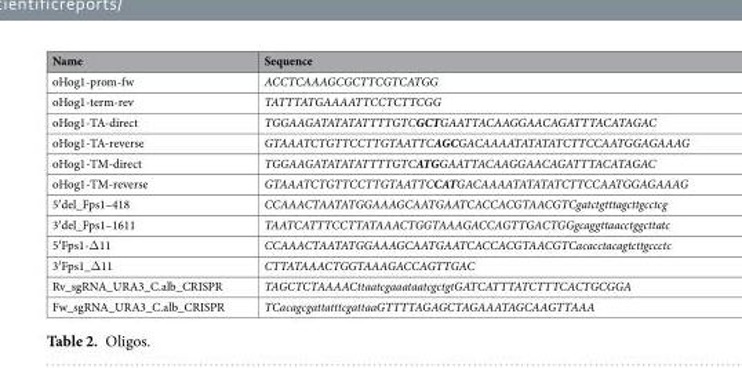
<table><thead><tr><td>Name</td><td>Sequence</td></tr></thead><tbody><tr><td>oHog1-prom-fw</td><td>ACCTCAAAGCGCTTCGTCATGG</td></tr><tr><td>oHog1-term-rev</td><td>TATTTATGAAAATTCCTCTTCGG</td></tr><tr><td>oHog1-TA-direct</td><td>TGGAAGATATATATTTTGTCGCTGAATTACAAGGAACAGATTTACATAGAC</td></tr><tr><td>oHog1-TA-reverse</td><td>GTAAATCTGTTCCTTGTAATTCAGCGACAAAATATATATCTTCCAATGGAGAAAG</td></tr><tr><td>oHog1-TM-direct</td><td>TGGAAGATATATATTTTGTCATGGAATTACAAGGAACAGATTTACATAGAC</td></tr><tr><td>oHog1-TM-reverse</td><td>GTAAATCTGTTCCTTGTAATTCCATGACAAAATATATATCTTCCAATGGAGAAAG</td></tr><tr><td>5′del_Fps1–418</td><td>CCAAACTAATATGGAAAGCAATGAATCACCACGTAACGTCgatctgtttagcttgcctcg</td></tr><tr><td>3′del_Fps1–1611</td><td>TAATCATTTCCTTATAAACTGGTAAAGACCAGTTGACTGGgcaggttaacctggcttatc</td></tr><tr><td>5′Fps1-Δ11</td><td>CCAAACTAATATGGAAAGCAATGAATCACCACGTAACGTCacacctacagtcttgccctc</td></tr><tr><td>3′Fps1_Δ11</td><td>CTTATAAACTGGTAAAGACCAGTTGAC</td></tr><tr><td>Rv_sgRNA_URA3_C.alb_CRISPR</td><td>TAGCTCTAAAACttaatcgaaataatcgctgtGATCATTTATCTTTCACTGCGGA</td></tr><tr><td>Fw_sgRNA_URA3_C.alb_CRISPR</td><td>TCacagcgattatttcgattaaGTTTTAGAGCTAGAAATAGCAAGTTAAA</td></tr></tbody></table>